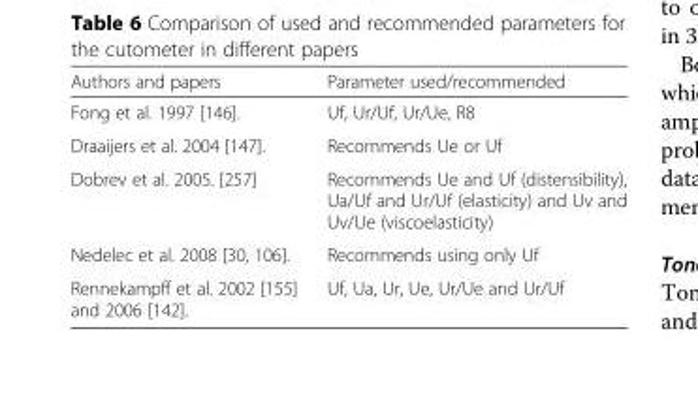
<table><thead><tr><td>Authors and papers</td><td>Parameter used/recommended</td></tr></thead><tbody><tr><td>Fong et al. 1997 [146].</td><td>Uf, Ur/Uf, Ur/Ue, R8</td></tr><tr><td>Draaijers et al. 2004 [147].</td><td>Recommends Ue or Uf</td></tr><tr><td>Dobrev et al. 2005. [257]</td><td>Recommends Ue and Uf (distensibility), Ua/Uf and Ur/Uf (elasticity) and Uv and Uv/Ue (viscoelasticity)</td></tr><tr><td>Nedelec et al. 2008 [30, 106].</td><td>Recommends using only Uf</td></tr><tr><td>Rennekampff et al. 2002 [155] and 2006 [142].</td><td>Uf, Ua, Ur, Ue, Ur/Ue and Ur/Uf</td></tr></tbody></table>